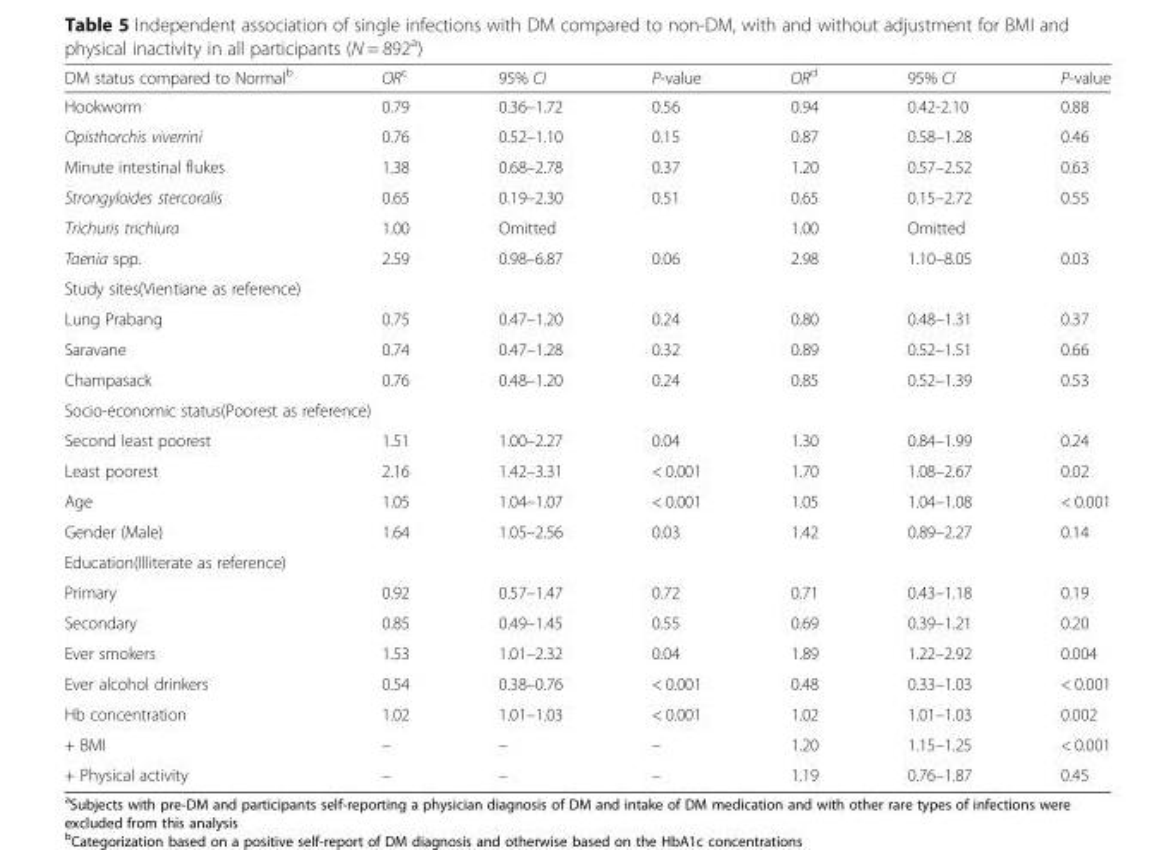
<table><thead><tr><td>DM status compared to Normal<sup>b</sup></td><td>OR<sup>c</sup></td><td>95% CI</td><td>P-value</td><td>OR<sup>d</sup></td><td>95% CI</td><td>P-value</td></tr></thead><tbody><tr><td>Hookworm</td><td>0.79</td><td>0.36–1.72</td><td>0.56</td><td>0.94</td><td>0.42-2.10</td><td>0.88</td></tr><tr><td>Opisthorchis viverrini</td><td>0.76</td><td>0.52–1.10</td><td>0.15</td><td>0.87</td><td>0.58–1.28</td><td>0.46</td></tr><tr><td>Minute intestinal flukes</td><td>1.38</td><td>0.68–2.78</td><td>0.37</td><td>1.20</td><td>0.57–2.52</td><td>0.63</td></tr><tr><td>Strongyloides stercoralis</td><td>0.65</td><td>0.19–2.30</td><td>0.51</td><td>0.65</td><td>0.15–2.72</td><td>0.55</td></tr><tr><td>Trichuris trichiura</td><td>1.00</td><td>Omitted</td><td></td><td>1.00</td><td>Omitted</td><td></td></tr><tr><td>Taenia spp.</td><td>2.59</td><td>0.98–6.87</td><td>0.06</td><td>2.98</td><td>1.10–8.05</td><td>0.03</td></tr><tr><td colspan="7">Study sites(Vientiane as reference)</td></tr><tr><td>Lung Prabang</td><td>0.75</td><td>0.47–1.20</td><td>0.24</td><td>0.80</td><td>0.48–1.31</td><td>0.37</td></tr><tr><td>Saravane</td><td>0.74</td><td>0.47–1.28</td><td>0.32</td><td>0.89</td><td>0.52–1.51</td><td>0.66</td></tr><tr><td>Champasack</td><td>0.76</td><td>0.48–1.20</td><td>0.24</td><td>0.85</td><td>0.52–1.39</td><td>0.53</td></tr><tr><td colspan="7">Socio-economic status(Poorest as reference)</td></tr><tr><td>Second least poorest</td><td>1.51</td><td>1.00–2.27</td><td>0.04</td><td>1.30</td><td>0.84–1.99</td><td>0.24</td></tr><tr><td>Least poorest</td><td>2.16</td><td>1.42–3.31</td><td>&lt; 0.001</td><td>1.70</td><td>1.08–2.67</td><td>0.02</td></tr><tr><td>Age</td><td>1.05</td><td>1.04–1.07</td><td>&lt; 0.001</td><td>1.05</td><td>1.04–1.08</td><td>&lt; 0.001</td></tr><tr><td>Gender (Male)</td><td>1.64</td><td>1.05–2.56</td><td>0.03</td><td>1.42</td><td>0.89–2.27</td><td>0.14</td></tr><tr><td colspan="7">Education(Illiterate as reference)</td></tr><tr><td>Primary</td><td>0.92</td><td>0.57–1.47</td><td>0.72</td><td>0.71</td><td>0.43–1.18</td><td>0.19</td></tr><tr><td>Secondary</td><td>0.85</td><td>0.49–1.45</td><td>0.55</td><td>0.69</td><td>0.39–1.21</td><td>0.20</td></tr><tr><td>Ever smokers</td><td>1.53</td><td>1.01–2.32</td><td>0.04</td><td>1.89</td><td>1.22–2.92</td><td>0.004</td></tr><tr><td>Ever alcohol drinkers</td><td>0.54</td><td>0.38–0.76</td><td>&lt; 0.001</td><td>0.48</td><td>0.33–1.03</td><td>&lt; 0.001</td></tr><tr><td>Hb concentration</td><td>1.02</td><td>1.01–1.03</td><td>&lt; 0.001</td><td>1.02</td><td>1.01–1.03</td><td>0.002</td></tr><tr><td>+ BMI</td><td>–</td><td>–</td><td>–</td><td>1.20</td><td>1.15–1.25</td><td>&lt; 0.001</td></tr><tr><td>+ Physical activity</td><td>–</td><td>–</td><td>–</td><td>1.19</td><td>0.76–1.87</td><td>0.45</td></tr></tbody></table>